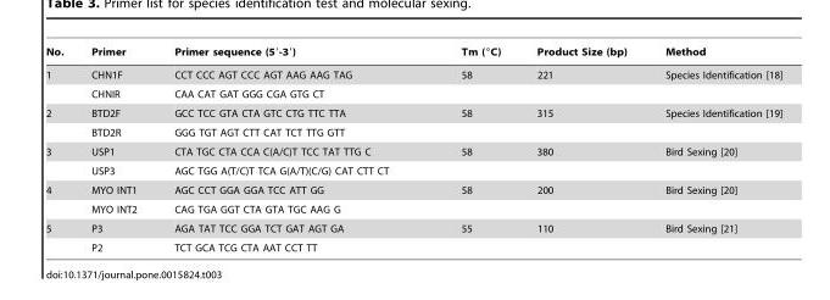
<table><thead><tr><td>No.</td><td>Primer</td><td>Primer sequence (5′-3′)</td><td>Tm (°C)</td><td>Product Size (bp)</td><td>Method</td></tr></thead><tbody><tr><td rowspan="2">1</td><td>CHN1F</td><td>CCT CCC AGT CCC AGT AAG AAG TAG</td><td>58</td><td>221</td><td>Species Identification [18]</td></tr><tr><td>CHNIR</td><td>CAA CAT GAT GGG CGA GTG CT</td><td></td><td></td><td></td></tr><tr><td rowspan="2">2</td><td>BTD2F</td><td>GCC TCC GTA CTA GTC CTG TTC TTA</td><td>58</td><td>315</td><td>Species Identification [19]</td></tr><tr><td>BTD2R</td><td>GGG TGT AGT CTT CAT TCT TTG GTT</td><td></td><td></td><td></td></tr><tr><td rowspan="2">3</td><td>USP1</td><td>CTA TGC CTA CCA C(A/C)T TCC TAT TTG C</td><td>58</td><td>380</td><td>Bird Sexing [20]</td></tr><tr><td>USP3</td><td>AGC TGG A(T/C)T TCA G(A/T)(C/G) CAT CTT CT</td><td></td><td></td><td></td></tr><tr><td rowspan="2">4</td><td>MYO INT1</td><td>AGC CCT GGA GGA TCC ATT GG</td><td>58</td><td>200</td><td>Bird Sexing [20]</td></tr><tr><td>MYO INT2</td><td>CAG TGA GGT CTA GTA TGC AAG G</td><td></td><td></td><td></td></tr><tr><td rowspan="2">5</td><td>P3</td><td>AGA TAT TCC GGA TCT GAT AGT GA</td><td>55</td><td>110</td><td>Bird Sexing [21]</td></tr><tr><td>P2</td><td>TCT GCA TCG CTA AAT CCT TT</td><td></td><td></td><td></td></tr></tbody></table>